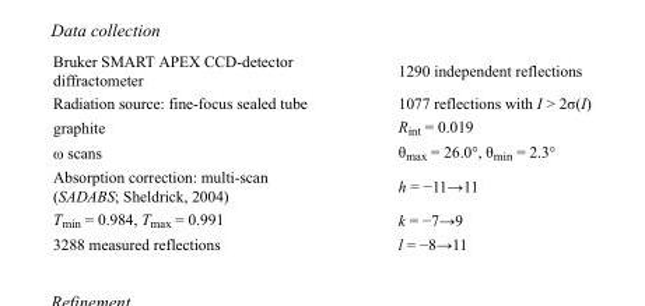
<table><tbody><tr><td>Bruker SMART APEX CCD-detector diffractometer</td><td>1290 independent reflections</td></tr><tr><td>Radiation source: fine-focus sealed tube</td><td>1077 reflections with I &gt; 2σ(I)</td></tr><tr><td>graphite</td><td>R<sub>int</sub> = 0.019</td></tr><tr><td>ω scans</td><td>θ<sub>max</sub> = 26.0°, θ<sub>min</sub> = 2.3°</td></tr><tr><td>Absorption correction: multi-scan (SADABS; Sheldrick, 2004)</td><td>h = −11→11</td></tr><tr><td>T<sub>min</sub> = 0.984, T<sub>max</sub> = 0.991</td><td>k = −7→9</td></tr><tr><td>3288 measured reflections</td><td>l = −8→11</td></tr></tbody></table>